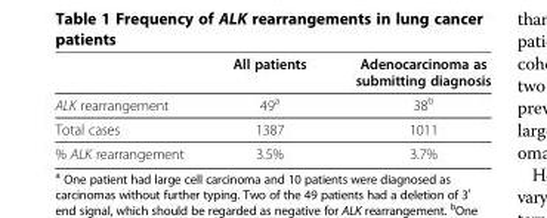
<table><thead><tr><td></td><td>All patients</td><td>Adenocarcinoma as submitting diagnosis</td></tr></thead><tbody><tr><td>ALK rearrangement</td><td>49<sup>a</sup></td><td>38<sup>b</sup></td></tr><tr><td>Total cases</td><td>1387</td><td>1011</td></tr><tr><td>% ALK rearrangement</td><td>3.5%</td><td>3.7%</td></tr></tbody></table>